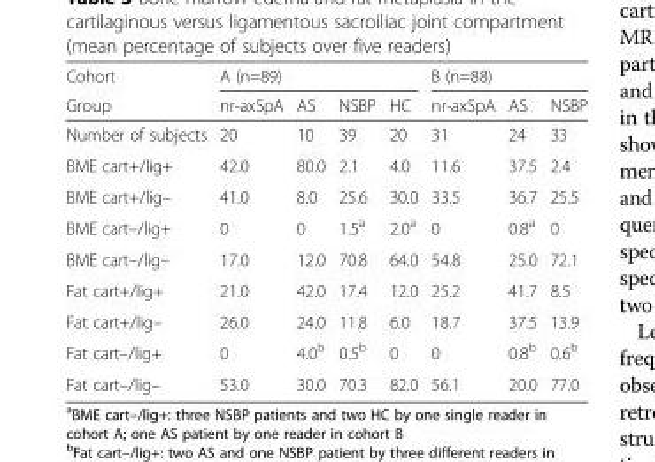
<table><thead><tr><td rowspan="2">Cohort Group</td><td colspan="4">A (n=89)</td><td colspan="3">B (n=88)</td></tr><tr><td>nr-axSpA</td><td>AS</td><td>NSBP</td><td>HC</td><td>nr-axSpA</td><td>AS</td><td>NSBP</td></tr></thead><tbody><tr><td>Number of subjects</td><td>20</td><td>10</td><td>39</td><td>20</td><td>31</td><td>24</td><td>33</td></tr><tr><td>BME cart+/lig+</td><td>42.0</td><td>80.0</td><td>2.1</td><td>4.0</td><td>11.6</td><td>37.5</td><td>2.4</td></tr><tr><td>BME cart+/lig–</td><td>41.0</td><td>8.0</td><td>25.6</td><td>30.0</td><td>33.5</td><td>36.7</td><td>25.5</td></tr><tr><td>BME cart–/lig+</td><td>0</td><td>0</td><td>1.5<sup>a</sup></td><td>2.0<sup>a</sup></td><td>0</td><td>0.8<sup>a</sup></td><td>0</td></tr><tr><td>BME cart–/lig–</td><td>17.0</td><td>12.0</td><td>70.8</td><td>64.0</td><td>54.8</td><td>25.0</td><td>72.1</td></tr><tr><td>Fat cart+/lig+</td><td>21.0</td><td>42.0</td><td>17.4</td><td>12.0</td><td>25.2</td><td>41.7</td><td>8.5</td></tr><tr><td>Fat cart+/lig–</td><td>26.0</td><td>24.0</td><td>11.8</td><td>6.0</td><td>18.7</td><td>37.5</td><td>13.9</td></tr><tr><td>Fat cart–/lig+</td><td>0</td><td>4.0<sup>b</sup></td><td>0.5<sup>b</sup></td><td>0</td><td>0</td><td>0.8<sup>b</sup></td><td>0.6<sup>b</sup></td></tr><tr><td>Fat cart–/lig–</td><td>53.0</td><td>30.0</td><td>70.3</td><td>82.0</td><td>56.1</td><td>20.0</td><td>77.0</td></tr></tbody></table>